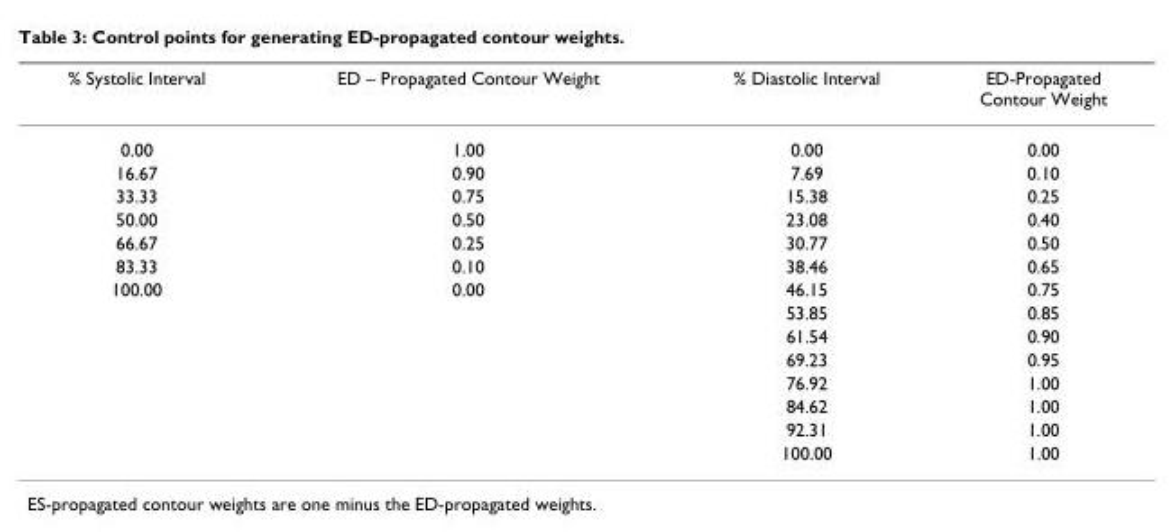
<table><thead><tr><td>% Systolic Interval</td><td>ED – Propagated Contour Weight</td><td>% Diastolic Interval</td><td>ED-Propagated Contour Weight</td></tr></thead><tbody><tr><td>0.00</td><td>1.00</td><td>0.00</td><td>0.00</td></tr><tr><td>16.67</td><td>0.90</td><td>7.69</td><td>0.10</td></tr><tr><td>33.33</td><td>0.75</td><td>15.38</td><td>0.25</td></tr><tr><td>50.00</td><td>0.50</td><td>23.08</td><td>0.40</td></tr><tr><td>66.67</td><td>0.25</td><td>30.77</td><td>0.50</td></tr><tr><td>83.33</td><td>0.10</td><td>38.46</td><td>0.65</td></tr><tr><td rowspan="8">100.00</td><td>0.00</td><td>46.15</td><td>0.75</td></tr><tr><td></td><td>53.85</td><td>0.85</td></tr><tr><td></td><td>61.54</td><td>0.90</td></tr><tr><td></td><td>69.23</td><td>0.95</td></tr><tr><td></td><td>76.92</td><td>1.00</td></tr><tr><td></td><td>84.62</td><td>1.00</td></tr><tr><td></td><td>92.31</td><td>1.00</td></tr><tr><td></td><td>100.00</td><td>1.00</td></tr></tbody></table>